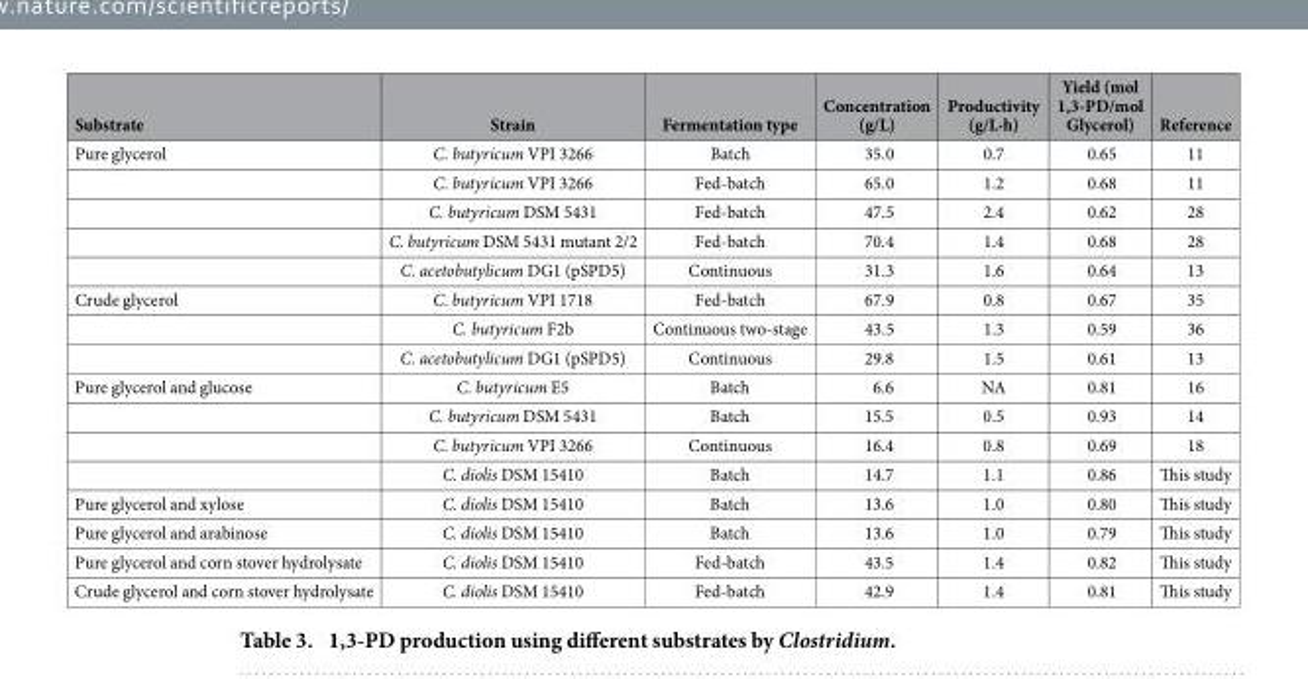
<table><thead><tr><td>Substrate</td><td>Strain</td><td>Fermentation type</td><td>Concentration (g/L)</td><td>Productivity (g/L·h)</td><td>Yield (mol 1,3-PD/mol Glycerol)</td><td>Reference</td></tr></thead><tbody><tr><td rowspan="5">Pure glycerol</td><td>C. butyricum VPI 3266</td><td>Batch</td><td>35.0</td><td>0.7</td><td>0.65</td><td>11</td></tr><tr><td>C. butyricum VPI 3266</td><td>Fed-batch</td><td>65.0</td><td>1.2</td><td>0.68</td><td>11</td></tr><tr><td>C. butyricum DSM 5431</td><td>Fed-batch</td><td>47.5</td><td>2.4</td><td>0.62</td><td>28</td></tr><tr><td>C. butyricum DSM 5431 mutant 2/2</td><td>Fed-batch</td><td>70.4</td><td>1.4</td><td>0.68</td><td>28</td></tr><tr><td>C. acetobutylicum DG1 (pSPD5)</td><td>Continuous</td><td>31.3</td><td>1.6</td><td>0.64</td><td>13</td></tr><tr><td rowspan="3">Crude glycerol</td><td>C. butyricum VPI 1718</td><td>Fed-batch</td><td>67.9</td><td>0.8</td><td>0.67</td><td>35</td></tr><tr><td>C. butyricum F2b</td><td>Continuous two-stage</td><td>43.5</td><td>1.3</td><td>0.59</td><td>36</td></tr><tr><td>C. acetobutylicum DG1 (pSPD5)</td><td>Continuous</td><td>29.8</td><td>1.5</td><td>0.61</td><td>13</td></tr><tr><td rowspan="4">Pure glycerol and glucose</td><td>C. butyricum E5</td><td>Batch</td><td>6.6</td><td>NA</td><td>0.81</td><td>16</td></tr><tr><td>C. butyricum DSM 5431</td><td>Batch</td><td>15.5</td><td>0.5</td><td>0.93</td><td>14</td></tr><tr><td>C. butyricum VPI 3266</td><td>Continuous</td><td>16.4</td><td>0.8</td><td>0.69</td><td>18</td></tr><tr><td>C. diolis DSM 15410</td><td>Batch</td><td>14.7</td><td>1.1</td><td>0.86</td><td>This study</td></tr><tr><td>Pure glycerol and xylose</td><td>C. diolis DSM 15410</td><td>Batch</td><td>13.6</td><td>1.0</td><td>0.80</td><td>This study</td></tr><tr><td>Pure glycerol and arabinose</td><td>C. diolis DSM 15410</td><td>Batch</td><td>13.6</td><td>1.0</td><td>0.79</td><td>This study</td></tr><tr><td>Pure glycerol and corn stover hydrolysate</td><td>C. diolis DSM 15410</td><td>Fed-batch</td><td>43.5</td><td>1.4</td><td>0.82</td><td>This study</td></tr><tr><td>Crude glycerol and corn stover hydrolysate</td><td>C. diolis DSM 15410</td><td>Fed-batch</td><td>42.9</td><td>1.4</td><td>0.81</td><td>This study</td></tr></tbody></table>